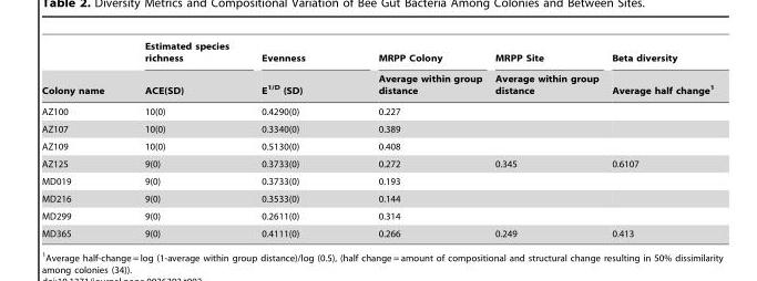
<table><thead><tr><td rowspan="2">Colony name</td><td rowspan="2">Estimated species richness ACE(SD)</td><td rowspan="2">Evenness E<sup>1/D</sup> (SD)</td><td rowspan="2">MRPP Colony Average within group distance</td><td rowspan="2">MRPP Site Average within group distance</td><td rowspan="2">Beta diversity Average half change<sup>1</sup></td></tr><tr></tr></thead><tbody><tr><td>AZ100</td><td>10(0)</td><td>0.4290(0)</td><td>0.227</td><td></td><td></td></tr><tr><td>AZ107</td><td>10(0)</td><td>0.3340(0)</td><td>0.389</td><td></td><td></td></tr><tr><td>AZ109</td><td>10(0)</td><td>0.5130(0)</td><td>0.408</td><td></td><td></td></tr><tr><td>AZ125</td><td>9(0)</td><td>0.3733(0)</td><td>0.272</td><td>0.345</td><td>0.6107</td></tr><tr><td>MD019</td><td>9(0)</td><td>0.3733(0)</td><td>0.193</td><td></td><td></td></tr><tr><td>MD216</td><td>9(0)</td><td>0.3533(0)</td><td>0.144</td><td></td><td></td></tr><tr><td>MD299</td><td>9(0)</td><td>0.2611(0)</td><td>0.314</td><td></td><td></td></tr><tr><td>MD365</td><td>9(0)</td><td>0.4111(0)</td><td>0.266</td><td>0.249</td><td>0.413</td></tr></tbody></table>